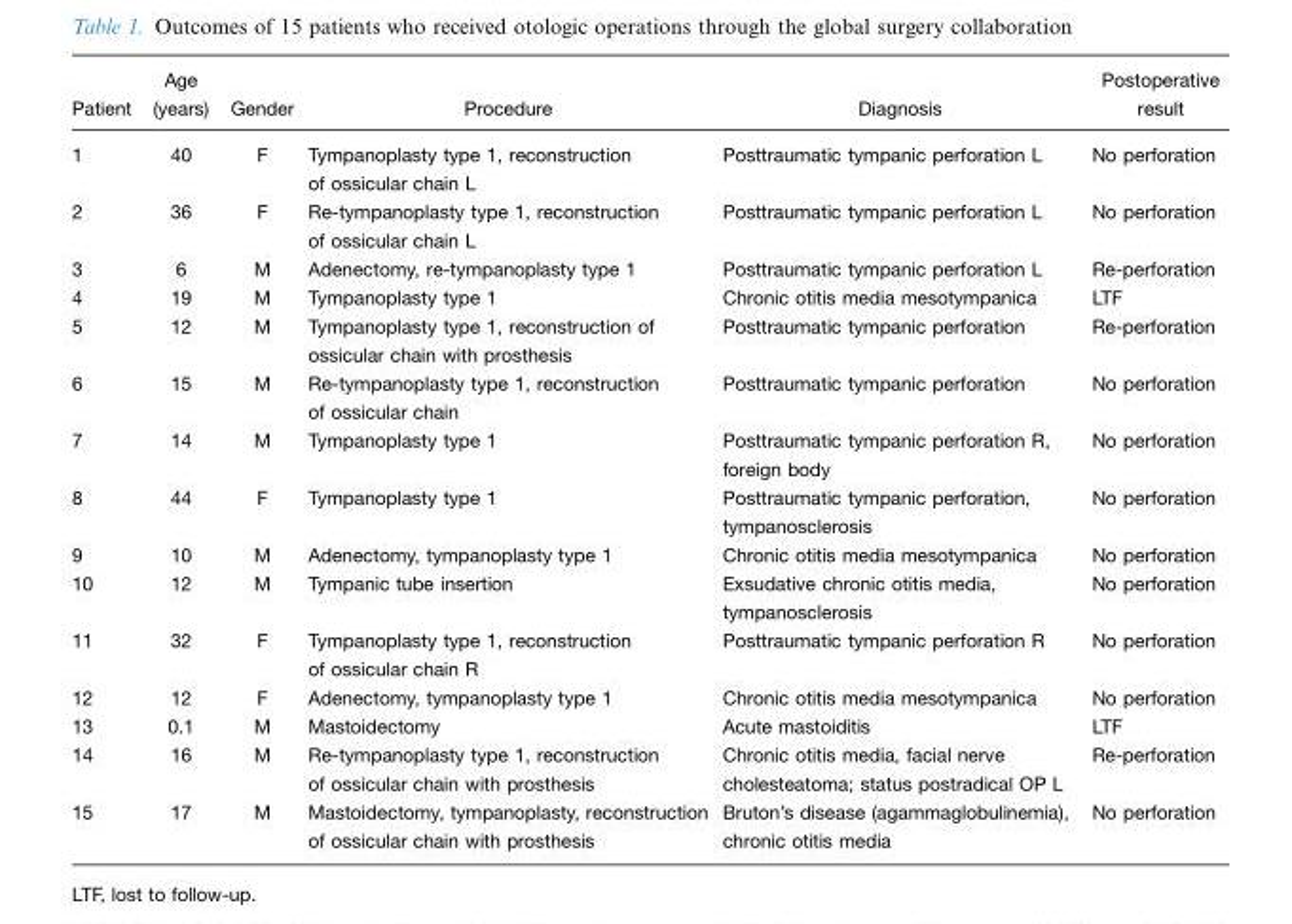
<table><thead><tr><td>Patient</td><td>Age (years)</td><td>Gender</td><td>Procedure</td><td>Diagnosis</td><td>Postoperative result</td></tr></thead><tbody><tr><td>1</td><td>40</td><td>F</td><td>Tympanoplasty type 1, reconstruction of ossicular chain L</td><td>Posttraumatic tympanic perforation L</td><td>No perforation</td></tr><tr><td>2</td><td>36</td><td>F</td><td>Re-tympanoplasty type 1, reconstruction of ossicular chain L</td><td>Posttraumatic tympanic perforation L</td><td>No perforation</td></tr><tr><td>3</td><td>6</td><td>M</td><td>Adenectomy, re-tympanoplasty type 1</td><td>Posttraumatic tympanic perforation L</td><td>Re-perforation</td></tr><tr><td>4</td><td>19</td><td>M</td><td>Tympanoplasty type 1</td><td>Chronic otitis media mesotympanica</td><td>LTF</td></tr><tr><td>5</td><td>12</td><td>M</td><td>Tympanoplasty type 1, reconstruction of ossicular chain with prosthesis</td><td>Posttraumatic tympanic perforation</td><td>Re-perforation</td></tr><tr><td>6</td><td>15</td><td>M</td><td>Re-tympanoplasty type 1, reconstruction of ossicular chain</td><td>Posttraumatic tympanic perforation</td><td>No perforation</td></tr><tr><td>7</td><td>14</td><td>M</td><td>Tympanoplasty type 1</td><td>Posttraumatic tympanic perforation R, foreign body</td><td>No perforation</td></tr><tr><td>8</td><td>44</td><td>F</td><td>Tympanoplasty type 1</td><td>Posttraumatic tympanic perforation, tympanosclerosis</td><td>No perforation</td></tr><tr><td>9</td><td>10</td><td>M</td><td>Adenectomy, tympanoplasty type 1</td><td>Chronic otitis media mesotympanica</td><td>No perforation</td></tr><tr><td>10</td><td>12</td><td>M</td><td>Tympanic tube insertion</td><td>Exsudative chronic otitis media, tympanosclerosis</td><td>No perforation</td></tr><tr><td>11</td><td>32</td><td>F</td><td>Tympanoplasty type 1, reconstruction of ossicular chain R</td><td>Posttraumatic tympanic perforation R</td><td>No perforation</td></tr><tr><td>12</td><td>12</td><td>F</td><td>Adenectomy, tympanoplasty type 1</td><td>Chronic otitis media mesotympanica</td><td>No perforation</td></tr><tr><td>13</td><td>0.1</td><td>M</td><td>Mastoidectomy</td><td>Acute mastoiditis</td><td>LTF</td></tr><tr><td>14</td><td>16</td><td>M</td><td>Re-tympanoplasty type 1, reconstruction of ossicular chain with prosthesis</td><td>Chronic otitis media, facial nerve cholesteatoma; status postradical OP L</td><td>Re-perforation</td></tr><tr><td>15</td><td>17</td><td>M</td><td>Mastoidectomy, tympanoplasty, reconstruction of ossicular chain with prosthesis</td><td>Bruton’s disease (agammaglobulinemia), chronic otitis media</td><td>No perforation</td></tr></tbody></table>